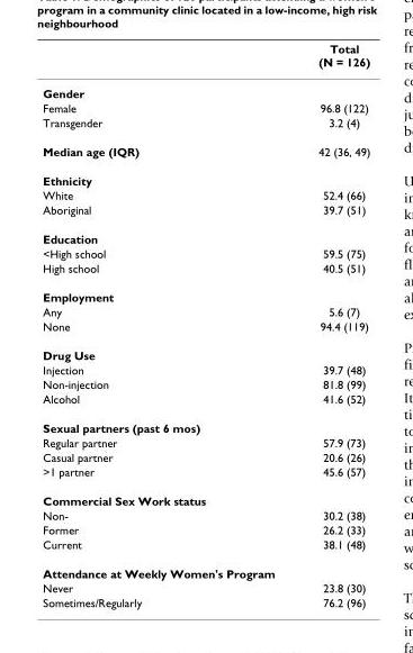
<table><thead><tr><td></td><td>Total (N = 126)</td></tr></thead><tbody><tr><td colspan="2">Gender</td></tr><tr><td>Female</td><td>96.8 (122)</td></tr><tr><td>Transgender</td><td>3.2 (4)</td></tr><tr><td>Median age (IQR)</td><td>42 (36, 49)</td></tr><tr><td colspan="2">Ethnicity</td></tr><tr><td>White</td><td>52.4 (66)</td></tr><tr><td>Aboriginal</td><td>39.7 (51)</td></tr><tr><td colspan="2">Education</td></tr><tr><td>&lt;High school</td><td>59.5 (75)</td></tr><tr><td>High school</td><td>40.5 (51)</td></tr><tr><td colspan="2">Employment</td></tr><tr><td>Any</td><td>5.6 (7)</td></tr><tr><td>None</td><td>94.4 (119)</td></tr><tr><td colspan="2">Drug Use</td></tr><tr><td>Injection</td><td>39.7 (48)</td></tr><tr><td>Non-injection</td><td>81.8 (99)</td></tr><tr><td>Alcohol</td><td>41.6 (52)</td></tr><tr><td colspan="2">Sexual partners (past 6 mos)</td></tr><tr><td>Regular partner</td><td>57.9 (73)</td></tr><tr><td>Casual partner</td><td>20.6 (26)</td></tr><tr><td>&gt;1 partner</td><td>45.6 (57)</td></tr><tr><td colspan="2">Commercial Sex Work status</td></tr><tr><td>Non-</td><td>30.2 (38)</td></tr><tr><td>Former</td><td>26.2 (33)</td></tr><tr><td>Current</td><td>38.1 (48)</td></tr><tr><td colspan="2">Attendance at Weekly Women&#x27;s Program</td></tr><tr><td>Never</td><td>23.8 (30)</td></tr><tr><td>Sometimes/Regularly</td><td>76.2 (96)</td></tr></tbody></table>